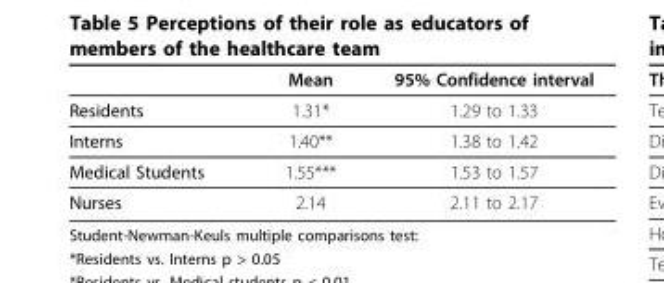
<table><thead><tr><td></td><td>Mean</td><td>95% Confidence interval</td></tr></thead><tbody><tr><td>Residents</td><td>1.31*</td><td>1.29 to 1.33</td></tr><tr><td>Interns</td><td>1.40**</td><td>1.38 to 1.42</td></tr><tr><td>Medical Students</td><td>1.55***</td><td>1.53 to 1.57</td></tr><tr><td>Nurses</td><td>2.14</td><td>2.11 to 2.17</td></tr></tbody></table>